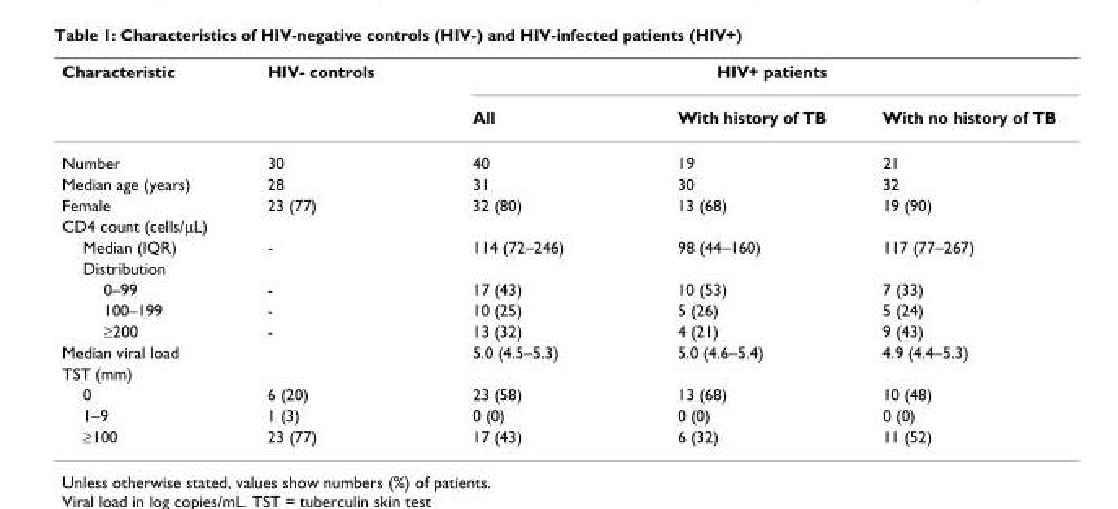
<table><thead><tr><td rowspan="2">Characteristic</td><td rowspan="2">HIV- controls</td><td colspan="3">HIV+ patients</td></tr><tr><td>All</td><td>With history of TB</td><td>With no history of TB</td></tr></thead><tbody><tr><td>Number</td><td>30</td><td>40</td><td>19</td><td>21</td></tr><tr><td>Median age (years)</td><td>28</td><td>31</td><td>30</td><td>32</td></tr><tr><td>Female</td><td>23 (77)</td><td>32 (80)</td><td>13 (68)</td><td>19 (90)</td></tr><tr><td colspan="5">CD4 count (cells/µL)</td></tr><tr><td>Median (IQR)</td><td>-</td><td>114 (72–246)</td><td>98 (44–160)</td><td>117 (77–267)</td></tr><tr><td colspan="5">Distribution</td></tr><tr><td>0–99</td><td>-</td><td>17 (43)</td><td>10 (53)</td><td>7 (33)</td></tr><tr><td>100–199</td><td>-</td><td>10 (25)</td><td>5 (26)</td><td>5 (24)</td></tr><tr><td>≥200</td><td>-</td><td>13 (32)</td><td>4 (21)</td><td>9 (43)</td></tr><tr><td>Median viral load</td><td></td><td>5.0 (4.5–5.3)</td><td>5.0 (4.6–5.4)</td><td>4.9 (4.4–5.3)</td></tr><tr><td colspan="5">TST (mm)</td></tr><tr><td>0</td><td>6 (20)</td><td>23 (58)</td><td>13 (68)</td><td>10 (48)</td></tr><tr><td>1–9</td><td>1 (3)</td><td>0 (0)</td><td>0 (0)</td><td>0 (0)</td></tr><tr><td>≥100</td><td>23 (77)</td><td>17 (43)</td><td>6 (32)</td><td>11 (52)</td></tr></tbody></table>